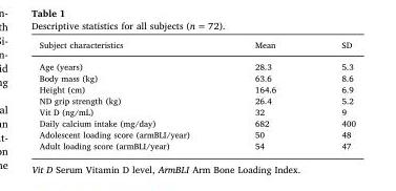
<table><thead><tr><td>Subject characteristics</td><td>Mean</td><td>SD</td></tr></thead><tbody><tr><td>Age (years)</td><td>28.3</td><td>5.3</td></tr><tr><td>Body mass (kg)</td><td>63.6</td><td>8.6</td></tr><tr><td>Height (cm)</td><td>164.6</td><td>6.9</td></tr><tr><td>ND grip strength (kg)</td><td>26.4</td><td>5.2</td></tr><tr><td>Vit D (ng/mL)</td><td>32</td><td>9</td></tr><tr><td>Daily calcium intake (mg/day)</td><td>682</td><td>400</td></tr><tr><td>Adolescent loading score (armBLI/year)</td><td>50</td><td>48</td></tr><tr><td>Adult loading score (armBLI/year)</td><td>54</td><td>47</td></tr></tbody></table>